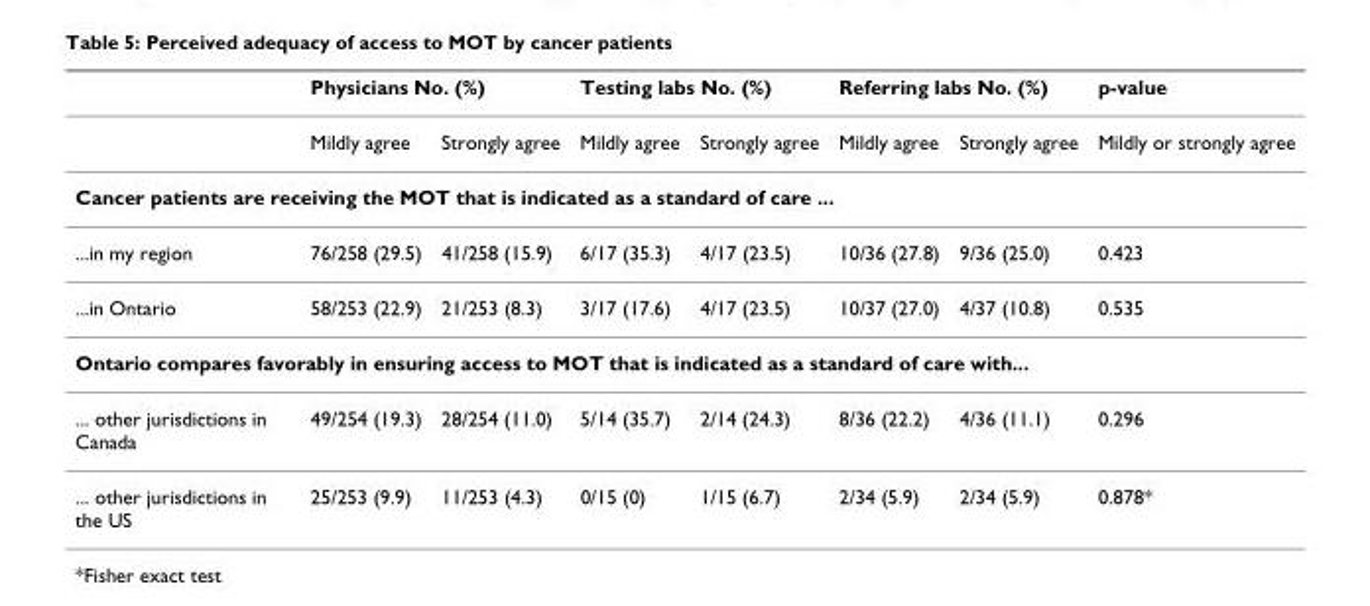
<table><thead><tr><td rowspan="2"></td><td colspan="2">Physicians No. (%)</td><td colspan="2">Testing labs No. (%)</td><td colspan="2">Referring labs No. (%)</td><td rowspan="2">p-value Mildly or strongly agree</td></tr><tr><td>Mildly agree</td><td>Strongly agree</td><td>Mildly agree</td><td>Strongly agree</td><td>Mildly agree</td><td>Strongly agree</td></tr></thead><tbody><tr><td colspan="8">Cancer patients are receiving the MOT that is indicated as a standard of care ...</td></tr><tr><td>...in my region</td><td>76/258 (29.5)</td><td>41/258 (15.9)</td><td>6/17 (35.3)</td><td>4/17 (23.5)</td><td>10/36 (27.8)</td><td>9/36 (25.0)</td><td>0.423</td></tr><tr><td>...in Ontario</td><td>58/253 (22.9)</td><td>21/253 (8.3)</td><td>3/17 (17.6)</td><td>4/17 (23.5)</td><td>10/37 (27.0)</td><td>4/37 (10.8)</td><td>0.535</td></tr><tr><td colspan="8">Ontario compares favorably in ensuring access to MOT that is indicated as a standard of care with...</td></tr><tr><td>... other jurisdictions in Canada</td><td>49/254 (19.3)</td><td>28/254 (11.0)</td><td>5/14 (35.7)</td><td>2/14 (24.3)</td><td>8/36 (22.2)</td><td>4/36 (11.1)</td><td>0.296</td></tr><tr><td>... other jurisdictions in the US</td><td>25/253 (9.9)</td><td>11/253 (4.3)</td><td>0/15 (0)</td><td>1/15 (6.7)</td><td>2/34 (5.9)</td><td>2/34 (5.9)</td><td>0.878*</td></tr></tbody></table>